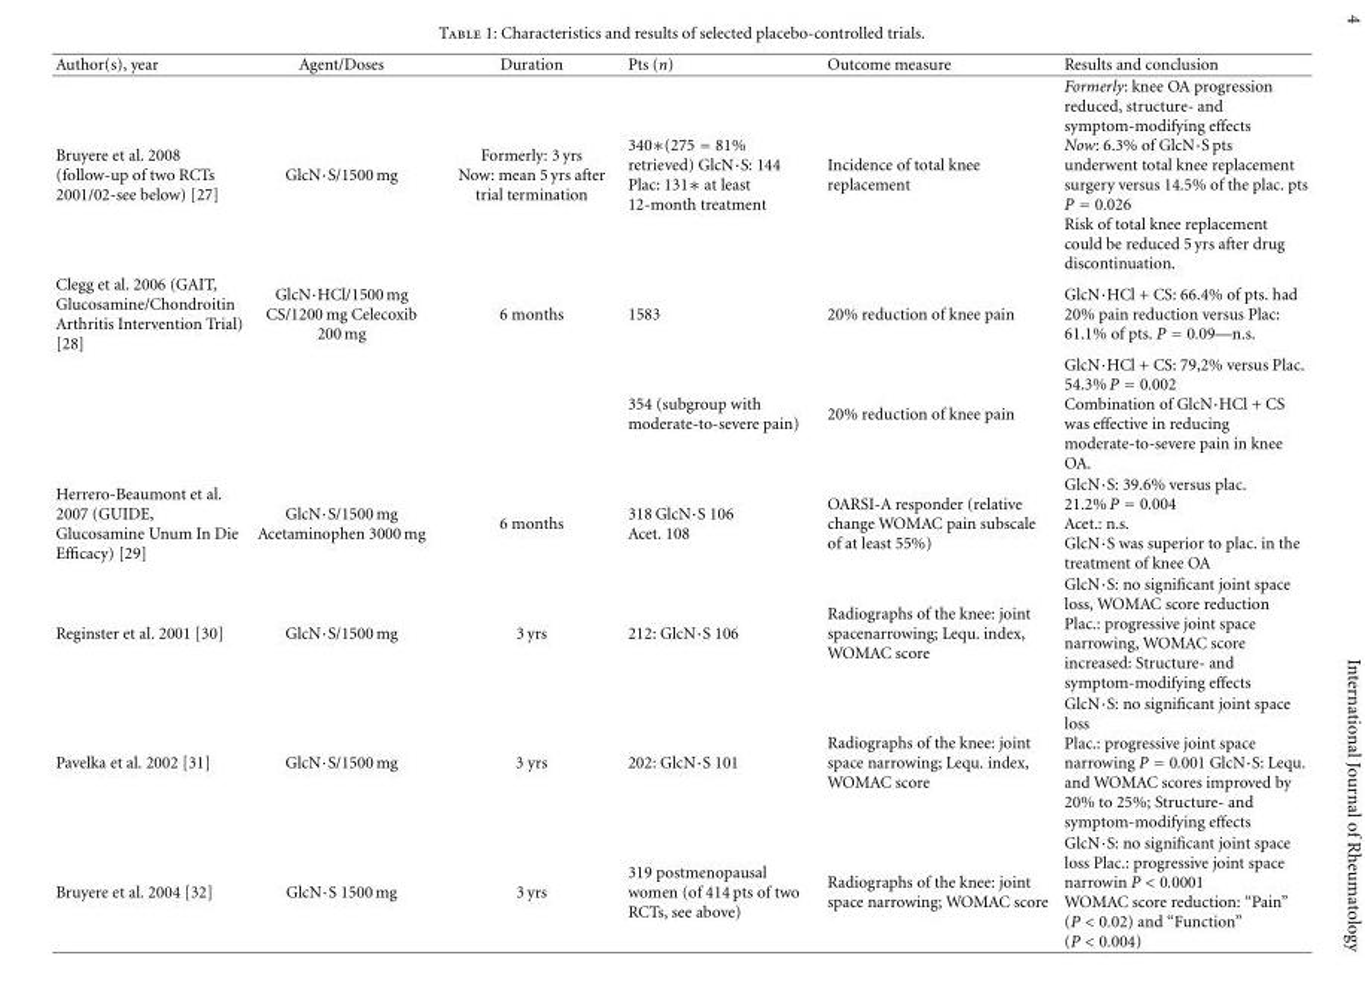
<table><thead><tr><td>Author(s), year</td><td>Agent/Doses</td><td>Duration</td><td>Pts (n)</td><td>Outcome measure</td><td>Results and conclusion</td></tr></thead><tbody><tr><td>Bruyere et al. 2008 (follow-up of two RCTs 2001/02-see below) [27]</td><td>GlcN·S/1500 mg</td><td>Formerly: 3 yrs Now: mean 5 yrs after trial termination</td><td>340∗(275 = 81% retrieved) GlcN·S: 144 Plac: 131∗ at least 12-month treatment</td><td>Incidence of total knee replacement</td><td>Formerly: knee OA progression reduced, structure- and symptom-modifying effects Now: 6.3% of GlcN·S pts underwent total knee replacement surgery versus 14.5% of the plac. pts P = 0.026 Risk of total knee replacement could be reduced 5 yrs after drug discontinuation.</td></tr><tr><td rowspan="2">Clegg et al. 2006 (GAIT, Glucosamine/Chondroitin Arthritis Intervention Trial) [28]</td><td>GlcN·HCl/1500 mg CS/1200 mg Celecoxib 200 mg</td><td>6 months</td><td>1583</td><td>20% reduction of knee pain</td><td>GlcN·HCl + CS: 66.4% of pts. had 20% pain reduction versus Plac: 61.1% of pts. P = 0.09—n.s.</td></tr><tr><td></td><td></td><td>354 (subgroup with moderate-to-severe pain)</td><td>20% reduction of knee pain</td><td>GlcN·HCl + CS: 79,2% versus Plac. 54.3%P = 0.002 Combination of GlcN·HCl + CS was effective in reducing moderate-to-severe pain in knee OA.</td></tr><tr><td>Herrero-Beaumont et al. 2007 (GUIDE, Glucosamine Unum In Die Efficacy) [29]</td><td>GlcN·S/1500 mg Acetaminophen 3000 mg</td><td>6 months</td><td>318 GlcN·S 106 Acet. 108</td><td>OARSI-A responder (relative change WOMAC pain subscale of at least 55%)</td><td>GlcN·S: 39.6% versus plac. 21.2%P = 0.004 Acet.: n.s. GlcN·S was superior to plac. in the treatment of knee OA</td></tr><tr><td>Reginster et al. 2001 [30]</td><td>GlcN·S/1500 mg</td><td>3 yrs</td><td>212: GlcN·S 106</td><td>Radiographs of the knee: joint spacenarrowing; Lequ. index, WOMAC score</td><td>GlcN·S: no significant joint space loss, WOMAC score reduction Plac.: progressive joint space narrowing, WOMAC score increased: Structure- and symptom-modifying effects</td></tr><tr><td>Pavelka et al. 2002 [31]</td><td>GlcN·S/1500 mg</td><td>3 yrs</td><td>202: GlcN·S 101</td><td>Radiographs of the knee: joint space narrowing; Lequ. index, WOMAC score</td><td>GlcN·S: no significant joint space loss Plac.: progressive joint space narrowing P = 0.001 GlcN·S: Lequ. and WOMAC scores improved by 20% to 25%; Structure- and symptom-modifying effects</td></tr><tr><td>Bruyere et al. 2004 [32]</td><td>GlcN·S 1500 mg</td><td>3 yrs</td><td>319 postmenopausal women (of 414 pts of two RCTs, see above)</td><td>Radiographs of the knee: joint space narrowing; WOMAC score</td><td>GlcN·S: no significant joint space loss Plac.: progressive joint space narrowin P &lt; 0.0001 WOMAC score reduction: “Pain” (P &lt; 0.02) and “Function” (P &lt; 0.004)</td></tr></tbody></table>